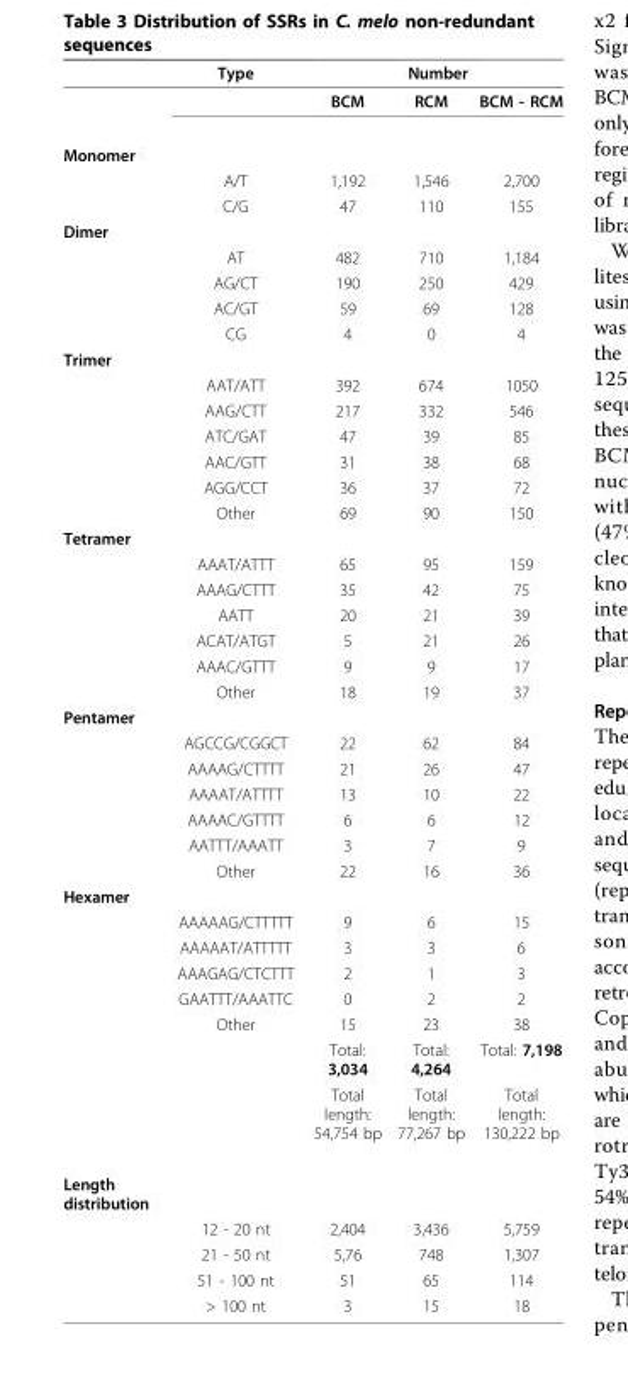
<table><thead><tr><td rowspan="2"></td><td rowspan="2">Type</td><td colspan="3">Number</td></tr><tr><td>BCM</td><td>RCM</td><td>BCM - RCM</td></tr></thead><tbody><tr><td colspan="5">Monomer</td></tr><tr><td></td><td>A/T</td><td>1,192</td><td>1,546</td><td>2,700</td></tr><tr><td></td><td>C/G</td><td>47</td><td>110</td><td>155</td></tr><tr><td colspan="5">Dimer</td></tr><tr><td></td><td>AT</td><td>482</td><td>710</td><td>1,184</td></tr><tr><td></td><td>AG/CT</td><td>190</td><td>250</td><td>429</td></tr><tr><td></td><td>AC/GT</td><td>59</td><td>69</td><td>128</td></tr><tr><td></td><td>CG</td><td>4</td><td>0</td><td>4</td></tr><tr><td colspan="5">Trimer</td></tr><tr><td></td><td>AAT/ATT</td><td>392</td><td>674</td><td>1050</td></tr><tr><td></td><td>AAG/CTT</td><td>217</td><td>332</td><td>546</td></tr><tr><td></td><td>ATC/GAT</td><td>47</td><td>39</td><td>85</td></tr><tr><td></td><td>AAC/GTT</td><td>31</td><td>38</td><td>68</td></tr><tr><td></td><td>AGG/CCT</td><td>36</td><td>37</td><td>72</td></tr><tr><td></td><td>Other</td><td>69</td><td>90</td><td>150</td></tr><tr><td colspan="5">Tetramer</td></tr><tr><td></td><td>AAAT/ATTT</td><td>65</td><td>95</td><td>159</td></tr><tr><td></td><td>AAAG/CTTT</td><td>35</td><td>42</td><td>75</td></tr><tr><td></td><td>AATT</td><td>20</td><td>21</td><td>39</td></tr><tr><td></td><td>ACAT/ATGT</td><td>5</td><td>21</td><td>26</td></tr><tr><td></td><td>AAAC/GTTT</td><td>9</td><td>9</td><td>17</td></tr><tr><td></td><td>Other</td><td>18</td><td>19</td><td>37</td></tr><tr><td colspan="5">Pentamer</td></tr><tr><td></td><td>AGCCG/CGGCT</td><td>22</td><td>62</td><td>84</td></tr><tr><td></td><td>AAAAG/CTTTT</td><td>21</td><td>26</td><td>47</td></tr><tr><td></td><td>AAAAT/ATTTT</td><td>13</td><td>10</td><td>22</td></tr><tr><td></td><td>AAAAC/GTTTT</td><td>6</td><td>6</td><td>12</td></tr><tr><td></td><td>AATTT/AAATT</td><td>3</td><td>7</td><td>9</td></tr><tr><td></td><td>Other</td><td>22</td><td>16</td><td>36</td></tr><tr><td colspan="5">Hexamer</td></tr><tr><td></td><td>AAAAAG/CTTTTT</td><td>9</td><td>6</td><td>15</td></tr><tr><td></td><td>AAAAAT/ATTTTT</td><td>3</td><td>3</td><td>6</td></tr><tr><td></td><td>AAAGAG/CTCTTT</td><td>2</td><td>1</td><td>3</td></tr><tr><td></td><td>GAATTT/AAATTC</td><td>0</td><td>2</td><td>2</td></tr><tr><td></td><td>Other</td><td>15</td><td>23</td><td>38</td></tr><tr><td></td><td></td><td>Total: 3,034</td><td>Total: 4,264</td><td>Total: 7,198</td></tr><tr><td></td><td></td><td>Total length: 54,754 bp</td><td>Total length: 77,267 bp</td><td>Total length: 130,222 bp</td></tr><tr><td colspan="5">Length distribution</td></tr><tr><td></td><td>12 - 20 nt</td><td>2,404</td><td>3,436</td><td>5,759</td></tr><tr><td></td><td>21 - 50 nt</td><td>5,76</td><td>748</td><td>1,307</td></tr><tr><td></td><td>51 - 100 nt</td><td>51</td><td>65</td><td>114</td></tr><tr><td></td><td>&gt; 100 nt</td><td>3</td><td>15</td><td>18</td></tr></tbody></table>